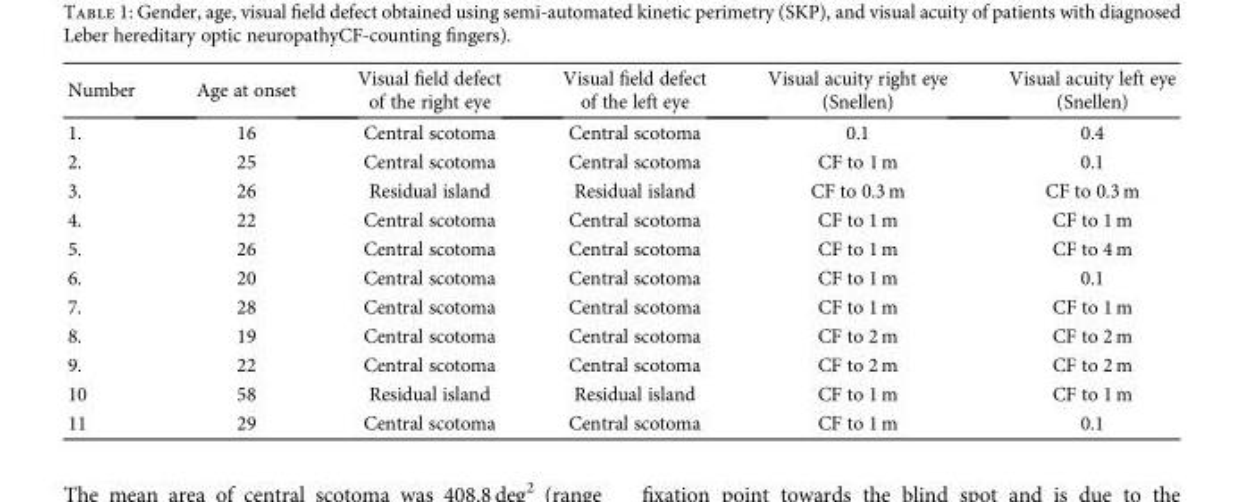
<table><thead><tr><td>Number</td><td>Age at onset</td><td>Visual field defect of the right eye</td><td>Visual field defect of the left eye</td><td>Visual acuity right eye (Snellen)</td><td>Visual acuity left eye (Snellen)</td></tr></thead><tbody><tr><td>1.</td><td>16</td><td>Central scotoma</td><td>Central scotoma</td><td>0.1</td><td>0.4</td></tr><tr><td>2.</td><td>25</td><td>Central scotoma</td><td>Central scotoma</td><td>CF to 1 m</td><td>0.1</td></tr><tr><td>3.</td><td>26</td><td>Residual island</td><td>Residual island</td><td>CF to 0.3 m</td><td>CF to 0.3 m</td></tr><tr><td>4.</td><td>22</td><td>Central scotoma</td><td>Central scotoma</td><td>CF to 1 m</td><td>CF to 1 m</td></tr><tr><td>5.</td><td>26</td><td>Central scotoma</td><td>Central scotoma</td><td>CF to 1 m</td><td>CF to 4 m</td></tr><tr><td>6.</td><td>20</td><td>Central scotoma</td><td>Central scotoma</td><td>CF to 1 m</td><td>0.1</td></tr><tr><td>7.</td><td>28</td><td>Central scotoma</td><td>Central scotoma</td><td>CF to 1 m</td><td>CF to 1 m</td></tr><tr><td>8.</td><td>19</td><td>Central scotoma</td><td>Central scotoma</td><td>CF to 2 m</td><td>CF to 2 m</td></tr><tr><td>9.</td><td>22</td><td>Central scotoma</td><td>Central scotoma</td><td>CF to 2 m</td><td>CF to 2 m</td></tr><tr><td>10</td><td>58</td><td>Residual island</td><td>Residual island</td><td>CF to 1 m</td><td>CF to 1 m</td></tr><tr><td>11</td><td>29</td><td>Central scotoma</td><td>Central scotoma</td><td>CF to 1 m</td><td>0.1</td></tr></tbody></table>